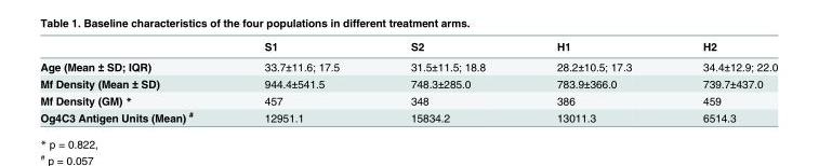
<table><thead><tr><td></td><td>S1</td><td>S2</td><td>H1</td><td>H2</td></tr></thead><tbody><tr><td>Age (Mean ± SD; IQR)</td><td>33.7±11.6; 17.5</td><td>31.5±11.5; 18.8</td><td>28.2±10.5; 17.3</td><td>34.4±12.9; 22.0</td></tr><tr><td>Mf Density (Mean ± SD)</td><td>944.4±541.5</td><td>748.3±285.0</td><td>783.9±366.0</td><td>739.7±437.0</td></tr><tr><td>Mf Density (GM) *</td><td>457</td><td>348</td><td>386</td><td>459</td></tr><tr><td>Og4C3 Antigen Units (Mean) <sup>#</sup></td><td>12951.1</td><td>15834.2</td><td>13011.3</td><td>6514.3</td></tr></tbody></table>